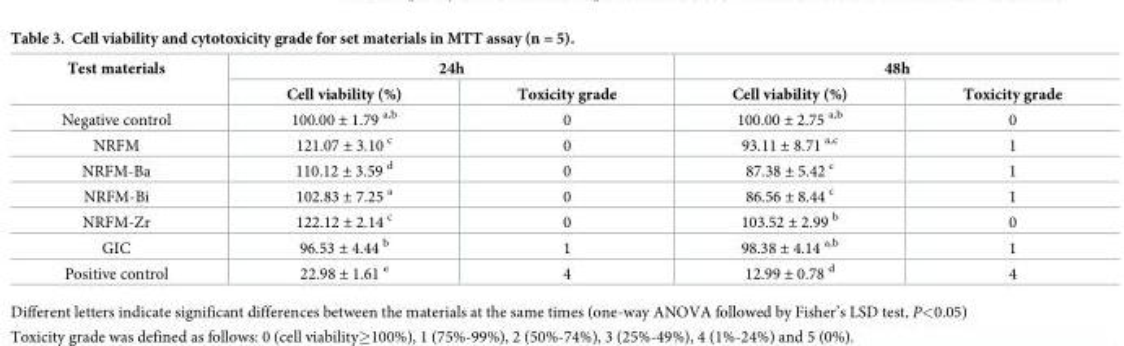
<table><thead><tr><td rowspan="2">Test materials</td><td colspan="2">24h</td><td colspan="2">48h</td></tr><tr><td>Cell viability (%)</td><td>Toxicity grade</td><td>Cell viability (%)</td><td>Toxicity grade</td></tr></thead><tbody><tr><td>Negative control</td><td>100.00 ± 1.79 <sup>a,b</sup></td><td>0</td><td>100.00 ± 2.75 <sup>a,b</sup></td><td>0</td></tr><tr><td>NRFM</td><td>121.07 ± 3.10 <sup>c</sup></td><td>0</td><td>93.11 ± 8.71 <sup>a,c</sup></td><td>1</td></tr><tr><td>NRFM-Ba</td><td>110.12 ± 3.59 <sup>d</sup></td><td>0</td><td>87.38 ± 5.42 <sup>c</sup></td><td>1</td></tr><tr><td>NRFM-Bi</td><td>102.83 ± 7.25 <sup>a</sup></td><td>0</td><td>86.56 ± 8.44 <sup>c</sup></td><td>1</td></tr><tr><td>NRFM-Zr</td><td>122.12 ± 2.14 <sup>c</sup></td><td>0</td><td>103.52 ± 2.99 <sup>b</sup></td><td>0</td></tr><tr><td>GIC</td><td>96.53 ± 4.44 <sup>b</sup></td><td>1</td><td>98.38 ± 4.14 <sup>a,b</sup></td><td>1</td></tr><tr><td>Positive control</td><td>22.98 ± 1.61 <sup>e</sup></td><td>4</td><td>12.99 ± 0.78 <sup>d</sup></td><td>4</td></tr></tbody></table>